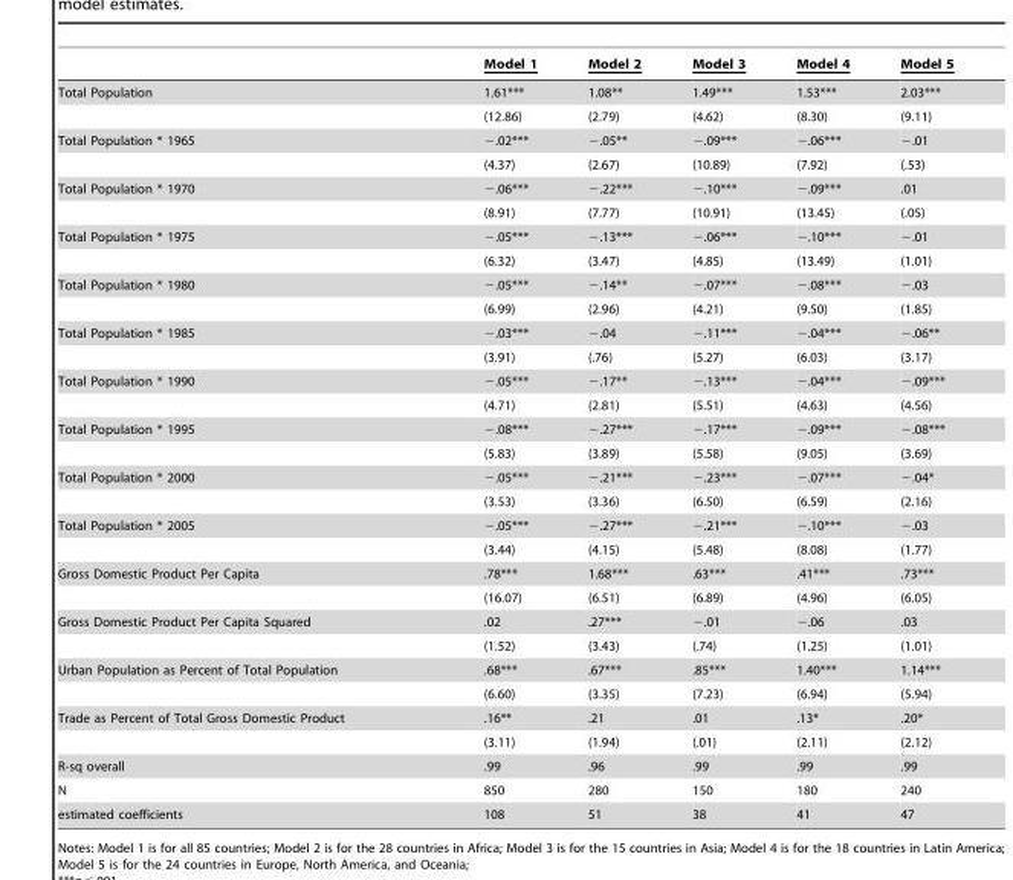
<table><thead><tr><td></td><td>Model 1</td><td>Model 2</td><td>Model 3</td><td>Model 4</td><td>Model 5</td></tr></thead><tbody><tr><td rowspan="2">Total Population</td><td>1.61***</td><td>1.08**</td><td>1.49***</td><td>1.53***</td><td>2.03***</td></tr><tr><td>(12.86)</td><td>(2.79)</td><td>(4.62)</td><td>(8.30)</td><td>(9.11)</td></tr><tr><td rowspan="2">Total Population * 1965</td><td>−.02***</td><td>−.05**</td><td>−.09***</td><td>−.06***</td><td>−.01</td></tr><tr><td>(4.37)</td><td>(2.67)</td><td>(10.89)</td><td>(7.92)</td><td>(.53)</td></tr><tr><td rowspan="2">Total Population * 1970</td><td>−.06***</td><td>−.22***</td><td>−.10***</td><td>−.09***</td><td>.01</td></tr><tr><td>(8.91)</td><td>(7.77)</td><td>(10.91)</td><td>(13.45)</td><td>(.05)</td></tr><tr><td rowspan="2">Total Population * 1975</td><td>−.05***</td><td>−.13***</td><td>−.06***</td><td>−.10***</td><td>−.01</td></tr><tr><td>(6.32)</td><td>(3.47)</td><td>(4.85)</td><td>(13.49)</td><td>(1.01)</td></tr><tr><td rowspan="2">Total Population * 1980</td><td>−.05***</td><td>−.14**</td><td>−.07***</td><td>−.08***</td><td>−.03</td></tr><tr><td>(6.99)</td><td>(2.96)</td><td>(4.21)</td><td>(9.50)</td><td>(1.85)</td></tr><tr><td rowspan="2">Total Population * 1985</td><td>−.03***</td><td>−.04</td><td>−.11***</td><td>−.04***</td><td>−.06**</td></tr><tr><td>(3.91)</td><td>(.76)</td><td>(5.27)</td><td>(6.03)</td><td>(3.17)</td></tr><tr><td rowspan="2">Total Population * 1990</td><td>−.05***</td><td>−.17**</td><td>−.13***</td><td>−.04***</td><td>−.09***</td></tr><tr><td>(4.71)</td><td>(2.81)</td><td>(5.51)</td><td>(4.63)</td><td>(4.56)</td></tr><tr><td rowspan="2">Total Population * 1995</td><td>−.08***</td><td>−.27***</td><td>−.17***</td><td>−.09***</td><td>−.08***</td></tr><tr><td>(5.83)</td><td>(3.89)</td><td>(5.58)</td><td>(9.05)</td><td>(3.69)</td></tr><tr><td rowspan="2">Total Population * 2000</td><td>−.05***</td><td>−.21***</td><td>−.23***</td><td>−.07***</td><td>−.04*</td></tr><tr><td>(3.53)</td><td>(3.36)</td><td>(6.50)</td><td>(6.59)</td><td>(2.16)</td></tr><tr><td rowspan="2">Total Population * 2005</td><td>−.05***</td><td>−.27***</td><td>−.21***</td><td>−.10***</td><td>−.03</td></tr><tr><td>(3.44)</td><td>(4.15)</td><td>(5.48)</td><td>(8.08)</td><td>(1.77)</td></tr><tr><td rowspan="2">Gross Domestic Product Per Capita</td><td>.78***</td><td>1.68***</td><td>.63***</td><td>.41***</td><td>.73***</td></tr><tr><td>(16.07)</td><td>(6.51)</td><td>(6.89)</td><td>(4.96)</td><td>(6.05)</td></tr><tr><td rowspan="2">Gross Domestic Product Per Capita Squared</td><td>.02</td><td>.27***</td><td>−.01</td><td>−.06</td><td>.03</td></tr><tr><td>(1.52)</td><td>(3.43)</td><td>(.74)</td><td>(1.25)</td><td>(1.01)</td></tr><tr><td rowspan="2">Urban Population as Percent of Total Population</td><td>.68***</td><td>.67***</td><td>.85***</td><td>1.40***</td><td>1.14***</td></tr><tr><td>(6.60)</td><td>(3.35)</td><td>(7.23)</td><td>(6.94)</td><td>(5.94)</td></tr><tr><td rowspan="2">Trade as Percent of Total Gross Domestic Product</td><td>.16**</td><td>.21</td><td>.01</td><td>.13*</td><td>.20*</td></tr><tr><td>(3.11)</td><td>(1.94)</td><td>(.01)</td><td>(2.11)</td><td>(2.12)</td></tr><tr><td>R-sq overall</td><td>.99</td><td>.96</td><td>.99</td><td>.99</td><td>.99</td></tr><tr><td>N</td><td>850</td><td>280</td><td>150</td><td>180</td><td>240</td></tr><tr><td>estimated coefficients</td><td>108</td><td>51</td><td>38</td><td>41</td><td>47</td></tr></tbody></table>